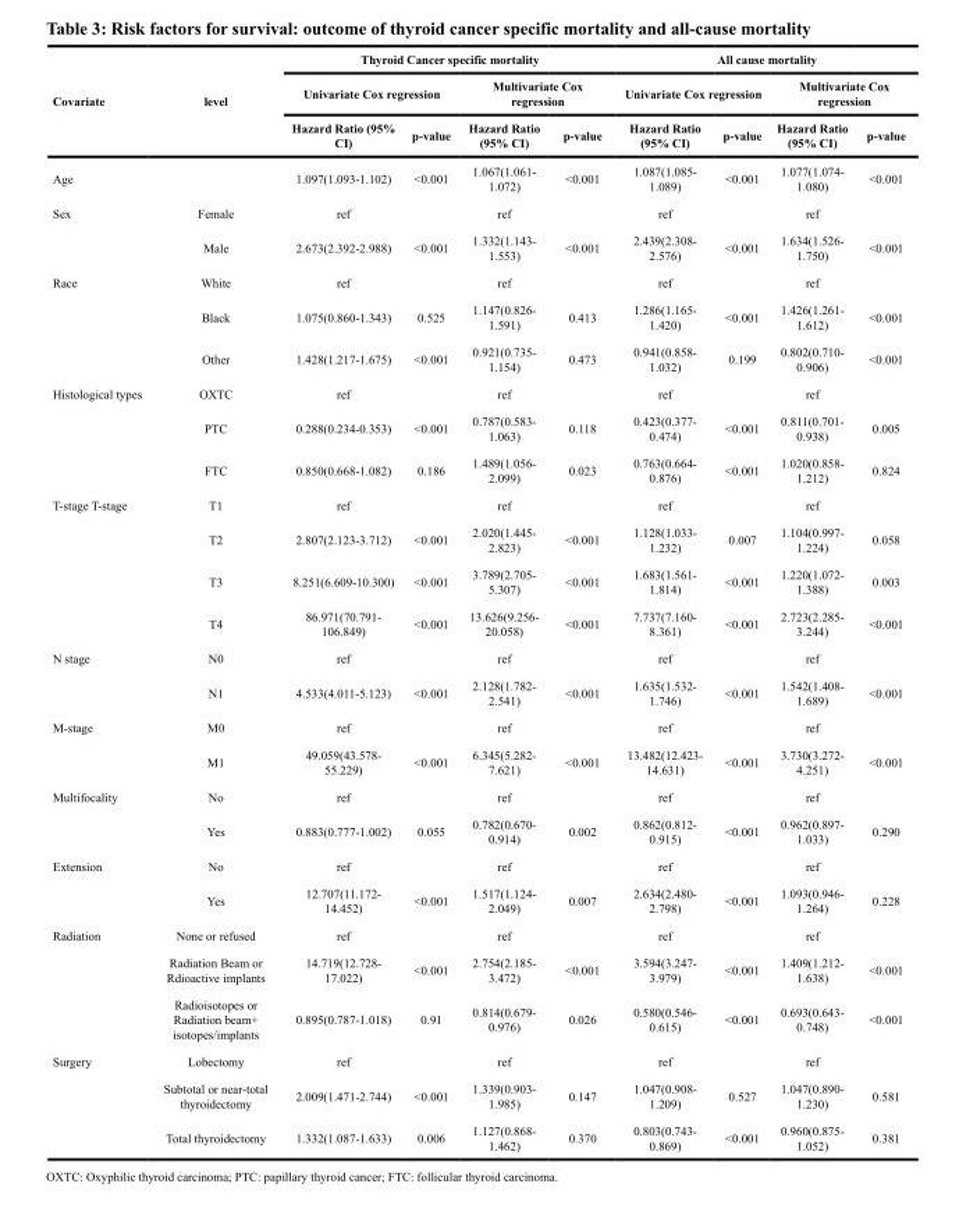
<table><thead><tr><td rowspan="3">Covariate</td><td rowspan="3">level</td><td colspan="4">Thyroid Cancer specific mortality</td><td colspan="4">All cause mortality</td></tr><tr><td colspan="2">Univariate Cox regression</td><td colspan="2">Multivariate Cox regression</td><td colspan="2">Univariate Cox regression</td><td colspan="2">Multivariate Cox regression</td></tr><tr><td>Hazard Ratio (95% CI)</td><td>p-value</td><td>Hazard Ratio (95% CI)</td><td>p-value</td><td>Hazard Ratio (95% CI)</td><td>p-value</td><td>Hazard Ratio (95% CI)</td><td>p-value</td></tr></thead><tbody><tr><td>Age</td><td></td><td>1.097(1.093-1.102)</td><td>&lt;0.001</td><td>1.067(1.061- 1.072)</td><td>&lt;0.001</td><td>1.087(1.085- 1.089)</td><td>&lt;0.001</td><td>1.077(1.074- 1.080)</td><td>&lt;0.001</td></tr><tr><td rowspan="2">Sex</td><td>Female</td><td>ref</td><td></td><td>ref</td><td></td><td>ref</td><td></td><td>ref</td><td></td></tr><tr><td>Male</td><td>2.673(2.392-2.988)</td><td>&lt;0.001</td><td>1.332(1.143- 1.553)</td><td>&lt;0.001</td><td>2.439(2.308- 2.576)</td><td>&lt;0.001</td><td>1.634(1.526- 1.750)</td><td>&lt;0.001</td></tr><tr><td rowspan="3">Race</td><td>White</td><td>ref</td><td></td><td>ref</td><td></td><td>ref</td><td></td><td>ref</td><td></td></tr><tr><td>Black</td><td>1.075(0.860-1.343)</td><td>0.525</td><td>1.147(0.826- 1.591)</td><td>0.413</td><td>1.286(1.165- 1.420)</td><td>&lt;0.001</td><td>1.426(1.261- 1.612)</td><td>&lt;0.001</td></tr><tr><td>Other</td><td>1.428(1.217-1.675)</td><td>&lt;0.001</td><td>0.921(0.735- 1.154)</td><td>0.473</td><td>0.941(0.858- 1.032)</td><td>0.199</td><td>0.802(0.710- 0.906)</td><td>&lt;0.001</td></tr><tr><td rowspan="3">Histological types</td><td>OXTC</td><td>ref</td><td></td><td>ref</td><td></td><td>ref</td><td></td><td>ref</td><td></td></tr><tr><td>PTC</td><td>0.288(0.234-0.353)</td><td>&lt;0.001</td><td>0.787(0.583- 1.063)</td><td>0.118</td><td>0.423(0.377- 0.474)</td><td>&lt;0.001</td><td>0.811(0.701- 0.938)</td><td>0.005</td></tr><tr><td>FTC</td><td>0.850(0.668-1.082)</td><td>0.186</td><td>1.489(1.056- 2.099)</td><td>0.023</td><td>0.763(0.664- 0.876)</td><td>&lt;0.001</td><td>1.020(0.858- 1.212)</td><td>0.824</td></tr><tr><td rowspan="4">T-stage T-stage</td><td>T1</td><td>ref</td><td></td><td>ref</td><td></td><td>ref</td><td></td><td>ref</td><td></td></tr><tr><td>T2</td><td>2.807(2.123-3.712)</td><td>&lt;0.001</td><td>2.020(1.445- 2.823)</td><td>&lt;0.001</td><td>1.128(1.033- 1.232)</td><td>0.007</td><td>1.104(0.997- 1.224)</td><td>0.058</td></tr><tr><td>T3</td><td>8.251(6.609-10.300)</td><td>&lt;0.001</td><td>3.789(2.705- 5.307)</td><td>&lt;0.001</td><td>1.683(1.561- 1.814)</td><td>&lt;0.001</td><td>1.220(1.072- 1.388)</td><td>0.003</td></tr><tr><td>T4</td><td>86.971(70.791- 106.849)</td><td>&lt;0.001</td><td>13.626(9.256- 20.058)</td><td>&lt;0.001</td><td>7.737(7.160- 8.361)</td><td>&lt;0.001</td><td>2.723(2.285- 3.244)</td><td>&lt;0.001</td></tr><tr><td rowspan="2">N stage</td><td>N0</td><td>ref</td><td></td><td>ref</td><td></td><td>ref</td><td></td><td>ref</td><td></td></tr><tr><td>N1</td><td>4.533(4.011-5.123)</td><td>&lt;0.001</td><td>2.128(1.782- 2.541)</td><td>&lt;0.001</td><td>1.635(1.532- 1.746)</td><td>&lt;0.001</td><td>1.542(1.408- 1.689)</td><td>&lt;0.001</td></tr><tr><td rowspan="2">M-stage</td><td>M0</td><td>ref</td><td></td><td>ref</td><td></td><td>ref</td><td></td><td>ref</td><td></td></tr><tr><td>M1</td><td>49.059(43.578- 55.229)</td><td>&lt;0.001</td><td>6.345(5.282- 7.621)</td><td>&lt;0.001</td><td>13.482(12.423- 14.631)</td><td>&lt;0.001</td><td>3.730(3.272- 4.251)</td><td>&lt;0.001</td></tr><tr><td rowspan="2">Multifocality</td><td>No</td><td>ref</td><td></td><td>ref</td><td></td><td>ref</td><td></td><td>ref</td><td></td></tr><tr><td>Yes</td><td>0.883(0.777-1.002)</td><td>0.055</td><td>0.782(0.670- 0.914)</td><td>0.002</td><td>0.862(0.812- 0.915)</td><td>&lt;0.001</td><td>0.962(0.897- 1.033)</td><td>0.290</td></tr><tr><td rowspan="2">Extension</td><td>No</td><td>ref</td><td></td><td>ref</td><td></td><td>ref</td><td></td><td>ref</td><td></td></tr><tr><td>Yes</td><td>12.707(11.172- 14.452)</td><td>&lt;0.001</td><td>1.517(1.124- 2.049)</td><td>0.007</td><td>2.634(2.480- 2.798)</td><td>&lt;0.001</td><td>1.093(0.946- 1.264)</td><td>0.228</td></tr><tr><td rowspan="3">Radiation</td><td>None or refused</td><td>ref</td><td></td><td>ref</td><td></td><td>ref</td><td></td><td>ref</td><td></td></tr><tr><td>Radiation Beam or Rdioactive implants</td><td>14.719(12.728- 17.022)</td><td>&lt;0.001</td><td>2.754(2.185- 3.472)</td><td>&lt;0.001</td><td>3.594(3.247- 3.979)</td><td>&lt;0.001</td><td>1.409(1.212- 1.638)</td><td>&lt;0.001</td></tr><tr><td>Radioisotopes or Radiation beam+ isotopes/implants</td><td>0.895(0.787-1.018)</td><td>0.91</td><td>0.814(0.679- 0.976)</td><td>0.026</td><td>0.580(0.546- 0.615)</td><td>&lt;0.001</td><td>0.693(0.643- 0.748)</td><td>&lt;0.001</td></tr><tr><td rowspan="3">Surgery</td><td>Lobectomy</td><td>ref</td><td></td><td>ref</td><td></td><td>ref</td><td></td><td>ref</td><td></td></tr><tr><td>Subtotal or near-total thyroidectomy</td><td>2.009(1.471-2.744)</td><td>&lt;0.001</td><td>1.339(0.903- 1.985)</td><td>0.147</td><td>1.047(0.908- 1.209)</td><td>0.527</td><td>1.047(0.890- 1.230)</td><td>0.581</td></tr><tr><td>Total thyroidectomy</td><td>1.332(1.087-1.633)</td><td>0.006</td><td>1.127(0.868- 1.462)</td><td>0.370</td><td>0.803(0.743- 0.869)</td><td>&lt;0.001</td><td>0.960(0.875- 1.052)</td><td>0.381</td></tr></tbody></table>